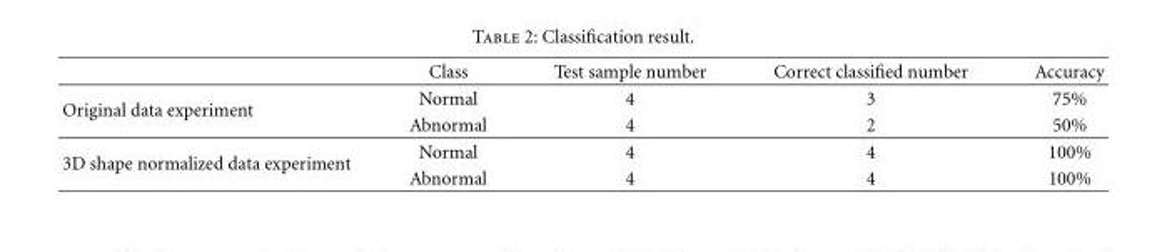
<table><thead><tr><td></td><td>Class</td><td>Test sample number</td><td>Correct classified number</td><td>Accuracy</td></tr></thead><tbody><tr><td rowspan="2">Original data experiment</td><td>Normal</td><td>4</td><td>3</td><td>75%</td></tr><tr><td>Abnormal</td><td>4</td><td>2</td><td>50%</td></tr><tr><td rowspan="2">3D shape normalized data experiment</td><td>Normal</td><td>4</td><td>4</td><td>100%</td></tr><tr><td>Abnormal</td><td>4</td><td>4</td><td>100%</td></tr></tbody></table>